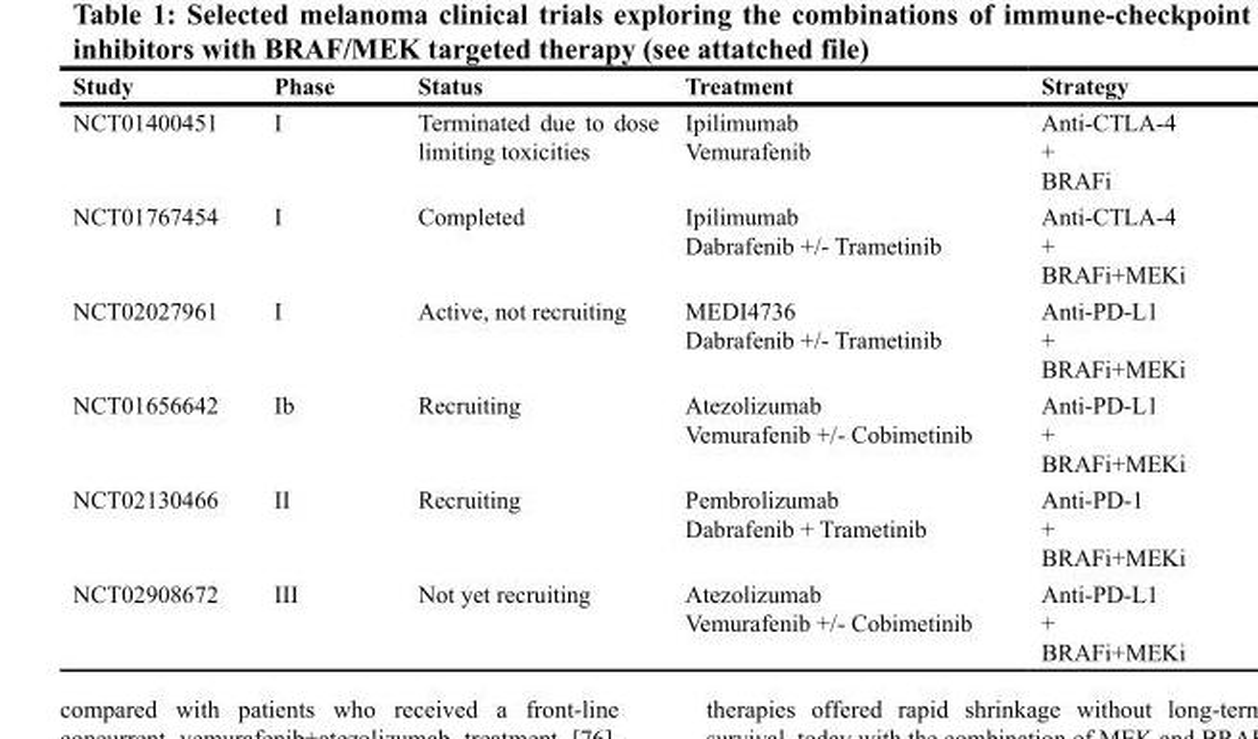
<table><thead><tr><td>Study</td><td>Phase</td><td>Status</td><td>Treatment</td><td>Strategy</td></tr></thead><tbody><tr><td>NCT01400451</td><td>I</td><td>Terminated due to dose limiting toxicities</td><td>Ipilimumab Vemurafenib</td><td>Anti-CTLA-4 + BRAFi</td></tr><tr><td>NCT01767454</td><td>I</td><td>Completed</td><td>Ipilimumab Dabrafenib +/- Trametinib</td><td>Anti-CTLA-4 + BRAFi+MEKi</td></tr><tr><td>NCT02027961</td><td>I</td><td>Active, not recruiting</td><td>MEDI4736 Dabrafenib +/- Trametinib</td><td>Anti-PD-L1 + BRAFi+MEKi</td></tr><tr><td>NCT01656642</td><td>Ib</td><td>Recruiting</td><td>Atezolizumab Vemurafenib +/- Cobimetinib</td><td>Anti-PD-L1 + BRAFi+MEKi</td></tr><tr><td>NCT02130466</td><td>II</td><td>Recruiting</td><td>Pembrolizumab Dabrafenib + Trametinib</td><td>Anti-PD-1 + BRAFi+MEKi</td></tr><tr><td>NCT02908672</td><td>III</td><td>Not yet recruiting</td><td>Atezolizumab Vemurafenib +/- Cobimetinib</td><td>Anti-PD-L1 + BRAFi+MEKi</td></tr></tbody></table>